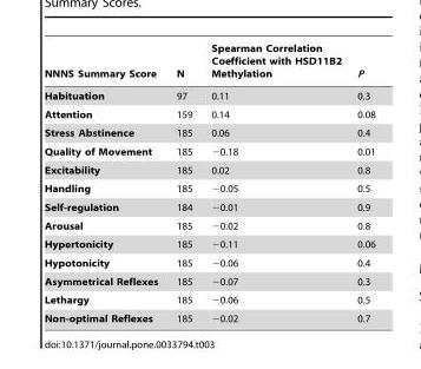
<table><thead><tr><td>NNNS Summary Score</td><td>N</td><td>Spearman Correlation Coefficient with HSD11B2 Methylation</td><td>P</td></tr></thead><tbody><tr><td>Habituation</td><td>97</td><td>0.11</td><td>0.3</td></tr><tr><td>Attention</td><td>159</td><td>0.14</td><td>0.08</td></tr><tr><td>Stress Abstinence</td><td>185</td><td>0.06</td><td>0.4</td></tr><tr><td>Quality of Movement</td><td>185</td><td>−0.18</td><td>0.01</td></tr><tr><td>Excitability</td><td>185</td><td>0.02</td><td>0.8</td></tr><tr><td>Handling</td><td>185</td><td>−0.05</td><td>0.5</td></tr><tr><td>Self-regulation</td><td>184</td><td>−0.01</td><td>0.9</td></tr><tr><td>Arousal</td><td>185</td><td>−0.02</td><td>0.8</td></tr><tr><td>Hypertonicity</td><td>185</td><td>−0.11</td><td>0.06</td></tr><tr><td>Hypotonicity</td><td>185</td><td>−0.06</td><td>0.4</td></tr><tr><td>Asymmetrical Reflexes</td><td>185</td><td>−0.07</td><td>0.3</td></tr><tr><td>Lethargy</td><td>185</td><td>−0.06</td><td>0.5</td></tr><tr><td>Non-optimal Reflexes</td><td>185</td><td>−0.02</td><td>0.7</td></tr></tbody></table>